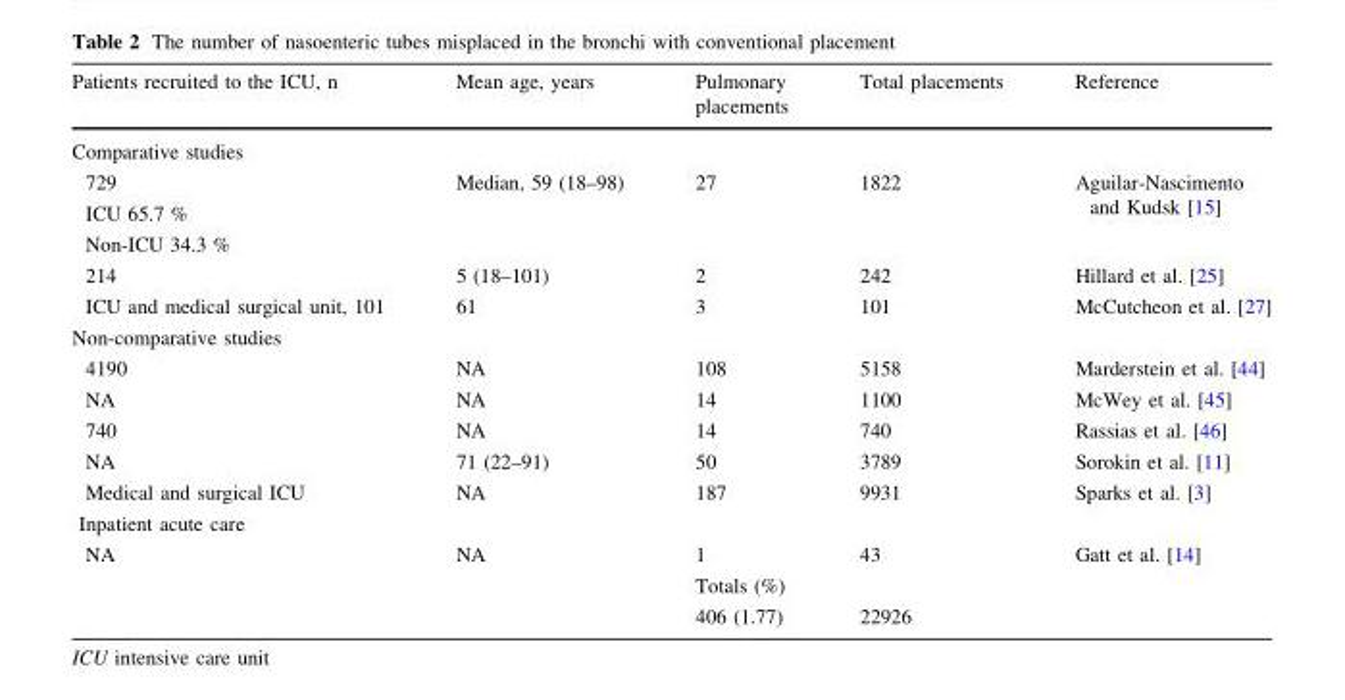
<table><thead><tr><td>Patients recruited to the ICU, n</td><td>Mean age, years</td><td>Pulmonary placements</td><td>Total placements</td><td>Reference</td></tr></thead><tbody><tr><td colspan="5">Comparative studies</td></tr><tr><td>729 ICU 65.7 % Non-ICU 34.3 %</td><td>Median, 59 (18–98)</td><td>27</td><td>1822</td><td>Aguilar-Nascimento and Kudsk [15]</td></tr><tr><td>214</td><td>5 (18–101)</td><td>2</td><td>242</td><td>Hillard et al. [25]</td></tr><tr><td>ICU and medical surgical unit, 101</td><td>61</td><td>3</td><td>101</td><td>McCutcheon et al. [27]</td></tr><tr><td colspan="5">Non-comparative studies</td></tr><tr><td>4190</td><td>NA</td><td>108</td><td>5158</td><td>Marderstein et al. [44]</td></tr><tr><td>NA</td><td>NA</td><td>14</td><td>1100</td><td>McWey et al. [45]</td></tr><tr><td>740</td><td>NA</td><td>14</td><td>740</td><td>Rassias et al. [46]</td></tr><tr><td>NA</td><td>71 (22–91)</td><td>50</td><td>3789</td><td>Sorokin et al. [11]</td></tr><tr><td>Medical and surgical ICU Inpatient acute care</td><td>NA</td><td>187</td><td>9931</td><td>Sparks et al. [3]</td></tr><tr><td rowspan="3">NA</td><td>NA</td><td>1</td><td>43</td><td>Gatt et al. [14]</td></tr><tr><td></td><td colspan="3">Totals (%)</td></tr><tr><td></td><td>406 (1.77)</td><td>22926</td><td></td></tr></tbody></table>